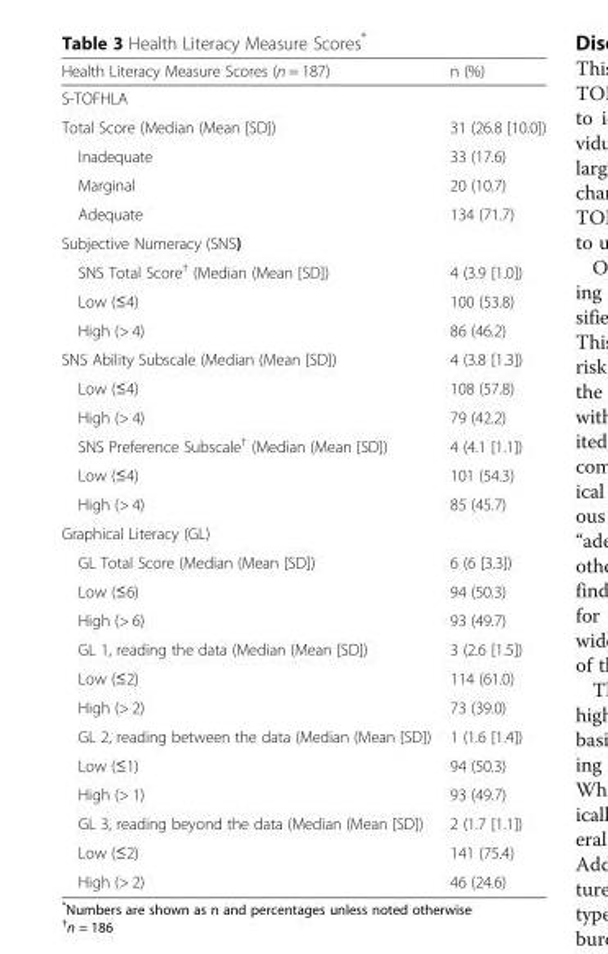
<table><thead><tr><td>Health Literacy Measure Scores (n = 187)</td><td>n (%)</td></tr></thead><tbody><tr><td colspan="2">S-TOFHLA</td></tr><tr><td>Total Score (Median (Mean [SD])</td><td>31 (26.8 [10.0])</td></tr><tr><td>Inadequate</td><td>33 (17.6)</td></tr><tr><td>Marginal</td><td>20 (10.7)</td></tr><tr><td>Adequate</td><td>134 (71.7)</td></tr><tr><td colspan="2">Subjective Numeracy (SNS)</td></tr><tr><td>SNS Total Score<sup>†</sup> (Median (Mean [SD])</td><td>4 (3.9 [1.0])</td></tr><tr><td>Low (≤4)</td><td>100 (53.8)</td></tr><tr><td>High (&gt; 4)</td><td>86 (46.2)</td></tr><tr><td>SNS Ability Subscale (Median (Mean [SD])</td><td>4 (3.8 [1.3])</td></tr><tr><td>Low (≤4)</td><td>108 (57.8)</td></tr><tr><td>High (&gt; 4)</td><td>79 (42.2)</td></tr><tr><td>SNS Preference Subscale<sup>†</sup> (Median (Mean [SD])</td><td>4 (4.1 [1.1])</td></tr><tr><td>Low (≤4)</td><td>101 (54.3)</td></tr><tr><td>High (&gt; 4)</td><td>85 (45.7)</td></tr><tr><td colspan="2">Graphical Literacy (GL)</td></tr><tr><td>GL Total Score (Median (Mean [SD])</td><td>6 (6 [3.3])</td></tr><tr><td>Low (≤6)</td><td>94 (50.3)</td></tr><tr><td>High (&gt; 6)</td><td>93 (49.7)</td></tr><tr><td>GL 1, reading the data (Median (Mean [SD])</td><td>3 (2.6 [1.5])</td></tr><tr><td>Low (≤2)</td><td>114 (61.0)</td></tr><tr><td>High (&gt; 2)</td><td>73 (39.0)</td></tr><tr><td>GL 2, reading between the data (Median (Mean [SD])</td><td>1 (1.6 [1.4])</td></tr><tr><td>Low (≤1)</td><td>94 (50.3)</td></tr><tr><td>High (&gt; 1)</td><td>93 (49.7)</td></tr><tr><td>GL 3, reading beyond the data (Median (Mean [SD])</td><td>2 (1.7 [1.1])</td></tr><tr><td>Low (≤2)</td><td>141 (75.4)</td></tr><tr><td>High (&gt; 2)</td><td>46 (24.6)</td></tr></tbody></table>